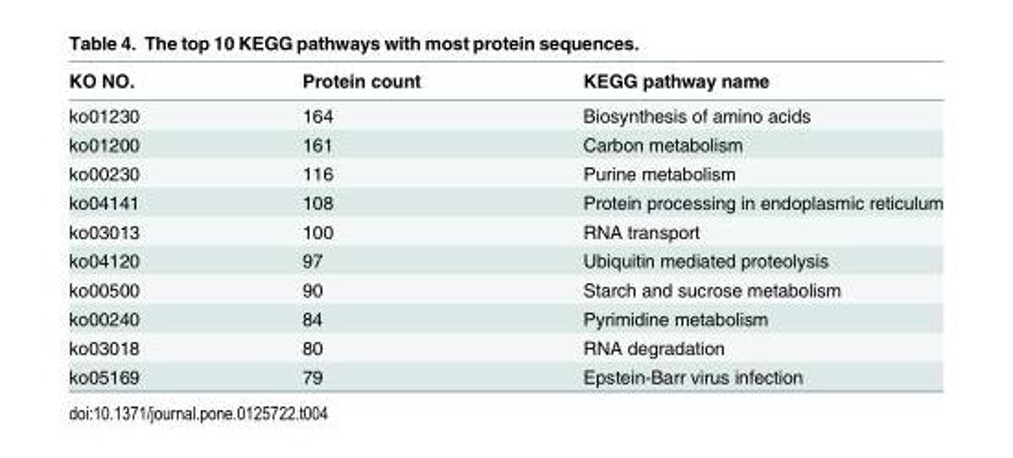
<table><thead><tr><td>KO NO.</td><td>Protein count</td><td>KEGG pathway name</td></tr></thead><tbody><tr><td>ko01230</td><td>164</td><td>Biosynthesis of amino acids</td></tr><tr><td>ko01200</td><td>161</td><td>Carbon metabolism</td></tr><tr><td>ko00230</td><td>116</td><td>Purine metabolism</td></tr><tr><td>ko04141</td><td>108</td><td>Protein processing in endoplasmic reticulum</td></tr><tr><td>ko03013</td><td>100</td><td>RNA transport</td></tr><tr><td>ko04120</td><td>97</td><td>Ubiquitin mediated proteolysis</td></tr><tr><td>ko00500</td><td>90</td><td>Starch and sucrose metabolism</td></tr><tr><td>ko00240</td><td>84</td><td>Pyrimidine metabolism</td></tr><tr><td>ko03018</td><td>80</td><td>RNA degradation</td></tr><tr><td>ko05169</td><td>79</td><td>Epstein-Barr virus infection</td></tr></tbody></table>